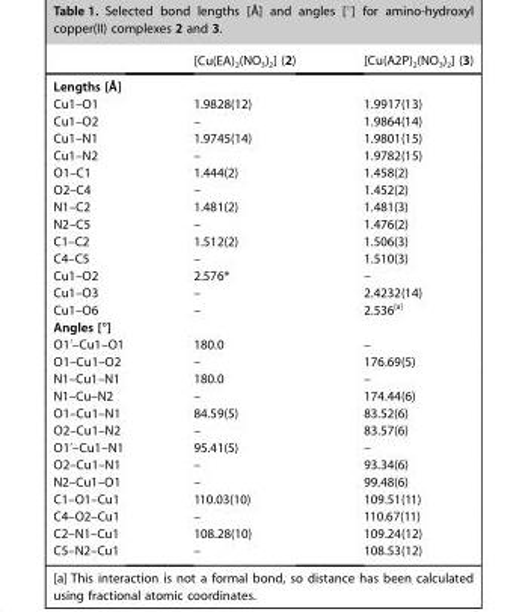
<table><thead><tr><td></td><td>[Cu(EA)<sub>2</sub>(NO<sub>3</sub>)<sub>2</sub>] (2)</td><td>[Cu(A2P)<sub>2</sub>(NO<sub>3</sub>)<sub>2</sub>] (3)</td></tr></thead><tbody><tr><td colspan="3">Lengths [Å]</td></tr><tr><td>Cu1–O1</td><td>1.9828(12)</td><td>1.9917(13)</td></tr><tr><td>Cu1–O2</td><td>–</td><td>1.9864(14)</td></tr><tr><td>Cu1–N1</td><td>1.9745(14)</td><td>1.9801(15)</td></tr><tr><td>Cu1–N2</td><td>–</td><td>1.9782(15)</td></tr><tr><td>O1–C1</td><td>1.444(2)</td><td>1.458(2)</td></tr><tr><td>O2–C4</td><td>–</td><td>1.452(2)</td></tr><tr><td>N1–C2</td><td>1.481(2)</td><td>1.481(3)</td></tr><tr><td>N2–C5</td><td>–</td><td>1.476(2)</td></tr><tr><td>C1–C2</td><td>1.512(2)</td><td>1.506(3)</td></tr><tr><td>C4–C5</td><td>–</td><td>1.510(3)</td></tr><tr><td>Cu1–O2</td><td>2.576*</td><td>–</td></tr><tr><td>Cu1–O3</td><td>–</td><td>2.4232(14)</td></tr><tr><td>Cu1–O6</td><td>–</td><td>2.536<sup>[a]</sup></td></tr><tr><td colspan="3">Angles [88]</td></tr><tr><td>O1’–Cu1–O1</td><td>180.0</td><td>–</td></tr><tr><td>O1–Cu1–O2</td><td>–</td><td>176.69(5)</td></tr><tr><td>N1–Cu1–N1</td><td>180.0</td><td>–</td></tr><tr><td>N1–Cu–N2</td><td>–</td><td>174.44(6)</td></tr><tr><td>O1–Cu1–N1</td><td>84.59(5)</td><td>83.52(6)</td></tr><tr><td>O2–Cu1–N2</td><td>–</td><td>83.57(6)</td></tr><tr><td>O1’–Cu1–N1</td><td>95.41(5)</td><td>–</td></tr><tr><td>O2–Cu1–N1</td><td>–</td><td>93.34(6)</td></tr><tr><td>N2–Cu1–O1</td><td>–</td><td>99.48(6)</td></tr><tr><td>C1–O1–Cu1</td><td>110.03(10)</td><td>109.51(11)</td></tr><tr><td>C4–O2–Cu1</td><td>–</td><td>110.67(11)</td></tr><tr><td>C2–N1–Cu1</td><td>108.28(10)</td><td>109.24(12)</td></tr><tr><td>C5–N2–Cu1</td><td>–</td><td>108.53(12)</td></tr></tbody></table>